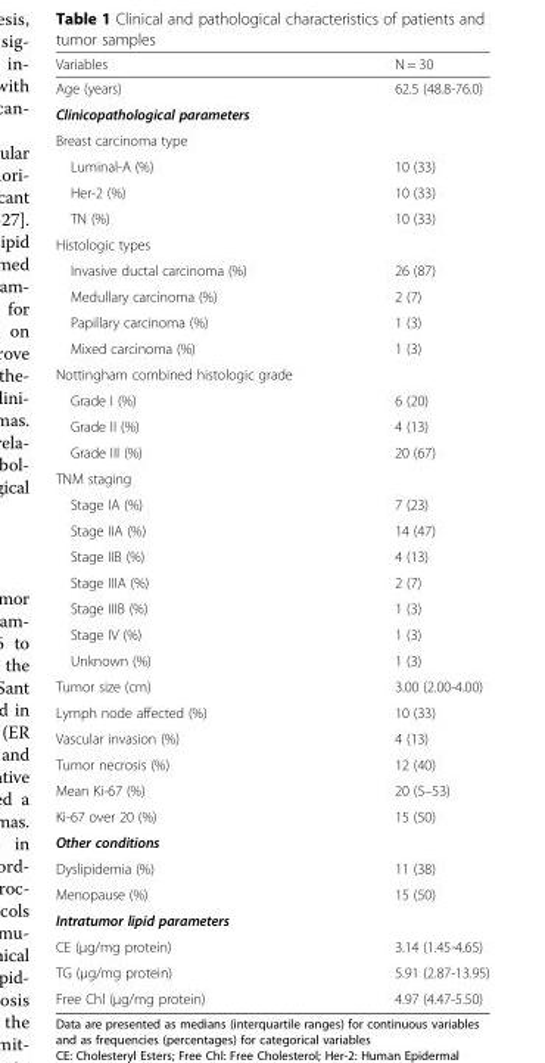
<table><thead><tr><td>Variables</td><td>N = 30</td></tr></thead><tbody><tr><td>Age (years)</td><td>62.5 (48.8-76.0)</td></tr><tr><td colspan="2">Clinicopathological parameters</td></tr><tr><td colspan="2">Breast carcinoma type</td></tr><tr><td>Luminal-A (%)</td><td>10 (33)</td></tr><tr><td>Her-2 (%)</td><td>10 (33)</td></tr><tr><td>TN (%)</td><td>10 (33)</td></tr><tr><td colspan="2">Histologic types</td></tr><tr><td>Invasive ductal carcinoma (%)</td><td>26 (87)</td></tr><tr><td>Medullary carcinoma (%)</td><td>2 (7)</td></tr><tr><td>Papillary carcinoma (%)</td><td>1 (3)</td></tr><tr><td>Mixed carcinoma (%)</td><td>1 (3)</td></tr><tr><td colspan="2">Nottingham combined histologic grade</td></tr><tr><td>Grade I (%)</td><td>6 (20)</td></tr><tr><td>Grade II (%)</td><td>4 (13)</td></tr><tr><td>Grade III (%)</td><td>20 (67)</td></tr><tr><td colspan="2">TNM staging</td></tr><tr><td>Stage IA (%)</td><td>7 (23)</td></tr><tr><td>Stage IIA (%)</td><td>14 (47)</td></tr><tr><td>Stage IIB (%)</td><td>4 (13)</td></tr><tr><td>Stage IIIA (%)</td><td>2 (7)</td></tr><tr><td>Stage IIIB (%)</td><td>1 (3)</td></tr><tr><td>Stage IV (%)</td><td>1 (3)</td></tr><tr><td>Unknown (%)</td><td>1 (3)</td></tr><tr><td>Tumor size (cm)</td><td>3.00 (2.00-4.00)</td></tr><tr><td>Lymph node affected (%)</td><td>10 (33)</td></tr><tr><td>Vascular invasion (%)</td><td>4 (13)</td></tr><tr><td>Tumor necrosis (%)</td><td>12 (40)</td></tr><tr><td>Mean Ki-67 (%)</td><td>20 (5–53)</td></tr><tr><td>Ki-67 over 20 (%)</td><td>15 (50)</td></tr><tr><td colspan="2">Other conditions</td></tr><tr><td>Dyslipidemia (%)</td><td>11 (38)</td></tr><tr><td>Menopause (%)</td><td>15 (50)</td></tr><tr><td colspan="2">Intratumor lipid parameters</td></tr><tr><td>CE (μg/mg protein)</td><td>3.14 (1.45-4.65)</td></tr><tr><td>TG (μg/mg protein)</td><td>5.91 (2.87-13.95)</td></tr><tr><td>Free Chl (μg/mg protein)</td><td>4.97 (4.47-5.50)</td></tr></tbody></table>